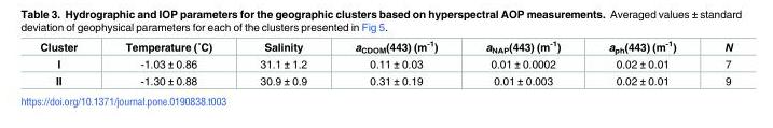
<table><thead><tr><td>Cluster</td><td>Temperature (˚C)</td><td>Salinity</td><td>a<sub>CDOM</sub>(443) (m<sup>-1</sup>)</td><td>a<sub>NAP</sub>(443) (m<sup>-1</sup>)</td><td>a<sub>ph</sub>(443) (m<sup>-1</sup>)</td><td>N</td></tr></thead><tbody><tr><td>I</td><td>-1.03 ± 0.86</td><td>31.1 ± 1.2</td><td>0.11 ± 0.03</td><td>0.01 ± 0.0002</td><td>0.02 ± 0.01</td><td>7</td></tr><tr><td>II</td><td>-1.30 ± 0.88</td><td>30.9 ± 0.9</td><td>0.31 ± 0.19</td><td>0.01 ± 0.003</td><td>0.02 ± 0.01</td><td>9</td></tr></tbody></table>